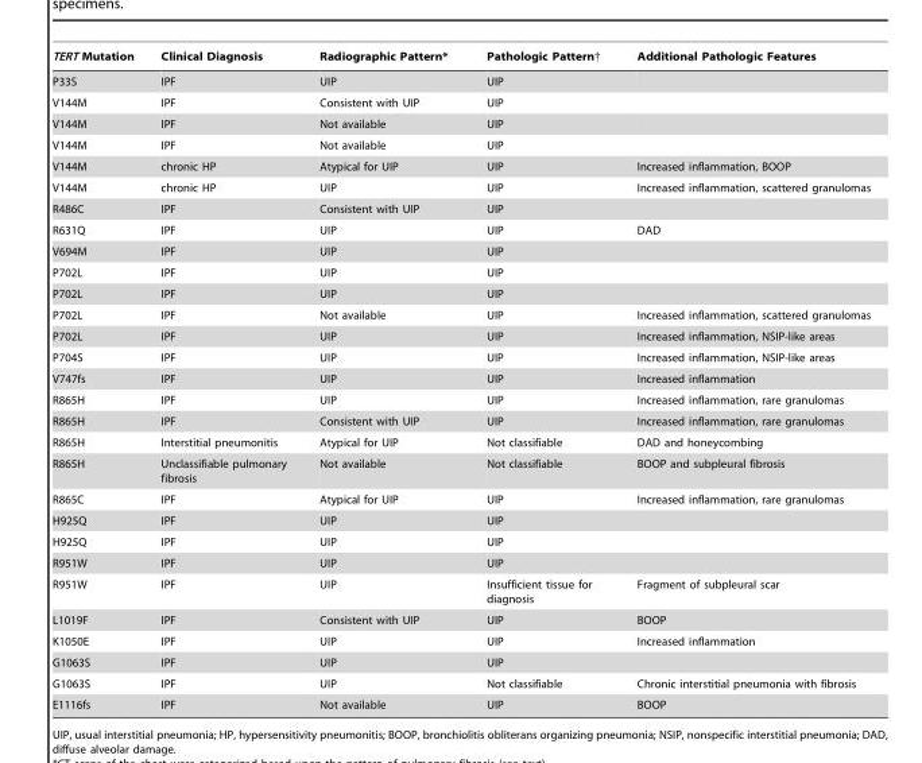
<table><thead><tr><td>TERT Mutation</td><td>Clinical Diagnosis</td><td>Radiographic Pattern*</td><td>Pathologic Pattern†</td><td>Additional Pathologic Features</td></tr></thead><tbody><tr><td>P33S</td><td>IPF</td><td>UIP</td><td>UIP</td><td></td></tr><tr><td>V144M</td><td>IPF</td><td>Consistent with UIP</td><td>UIP</td><td></td></tr><tr><td>V144M</td><td>IPF</td><td>Not available</td><td>UIP</td><td></td></tr><tr><td>V144M</td><td>IPF</td><td>Not available</td><td>UIP</td><td></td></tr><tr><td>V144M</td><td>chronic HP</td><td>Atypical for UIP</td><td>UIP</td><td>Increased inflammation, BOOP</td></tr><tr><td>V144M</td><td>chronic HP</td><td>UIP</td><td>UIP</td><td>Increased inflammation, scattered granulomas</td></tr><tr><td>R486C</td><td>IPF</td><td>Consistent with UIP</td><td>UIP</td><td></td></tr><tr><td>R631Q</td><td>IPF</td><td>UIP</td><td>UIP</td><td>DAD</td></tr><tr><td>V694M</td><td>IPF</td><td>UIP</td><td>UIP</td><td></td></tr><tr><td>P702L</td><td>IPF</td><td>UIP</td><td>UIP</td><td></td></tr><tr><td>P702L</td><td>IPF</td><td>UIP</td><td>UIP</td><td></td></tr><tr><td>P702L</td><td>IPF</td><td>Not available</td><td>UIP</td><td>Increased inflammation, scattered granulomas</td></tr><tr><td>P702L</td><td>IPF</td><td>UIP</td><td>UIP</td><td>Increased inflammation, NSIP-like areas</td></tr><tr><td>P704S</td><td>IPF</td><td>UIP</td><td>UIP</td><td>Increased inflammation, NSIP-like areas</td></tr><tr><td>V747fs</td><td>IPF</td><td>UIP</td><td>UIP</td><td>Increased inflammation</td></tr><tr><td>R865H</td><td>IPF</td><td>UIP</td><td>UIP</td><td>Increased inflammation, rare granulomas</td></tr><tr><td>R865H</td><td>IPF</td><td>Consistent with UIP</td><td>UIP</td><td>Increased inflammation, rare granulomas</td></tr><tr><td>R865H</td><td>Interstitial pneumonitis</td><td>Atypical for UIP</td><td>Not classifiable</td><td>DAD and honeycombing</td></tr><tr><td>R865H</td><td>Unclassifiable pulmonary fibrosis</td><td>Not available</td><td>Not classifiable</td><td>BOOP and subpleural fibrosis</td></tr><tr><td>R865C</td><td>IPF</td><td>Atypical for UIP</td><td>UIP</td><td>Increased inflammation, rare granulomas</td></tr><tr><td>H925Q</td><td>IPF</td><td>UIP</td><td>UIP</td><td></td></tr><tr><td>H925Q</td><td>IPF</td><td>UIP</td><td>UIP</td><td></td></tr><tr><td>R951W</td><td>IPF</td><td>UIP</td><td>UIP</td><td></td></tr><tr><td>R951W</td><td>IPF</td><td>UIP</td><td>Insufficient tissue for diagnosis</td><td>Fragment of subpleural scar</td></tr><tr><td>L1019F</td><td>IPF</td><td>Consistent with UIP</td><td>UIP</td><td>BOOP</td></tr><tr><td>K1050E</td><td>IPF</td><td>UIP</td><td>UIP</td><td>Increased inflammation</td></tr><tr><td>G1063S</td><td>IPF</td><td>UIP</td><td>UIP</td><td></td></tr><tr><td>G1063S</td><td>IPF</td><td>UIP</td><td>Not classifiable</td><td>Chronic interstitial pneumonia with fibrosis</td></tr><tr><td>E1116fs</td><td>IPF</td><td>Not available</td><td>UIP</td><td>BOOP</td></tr></tbody></table>